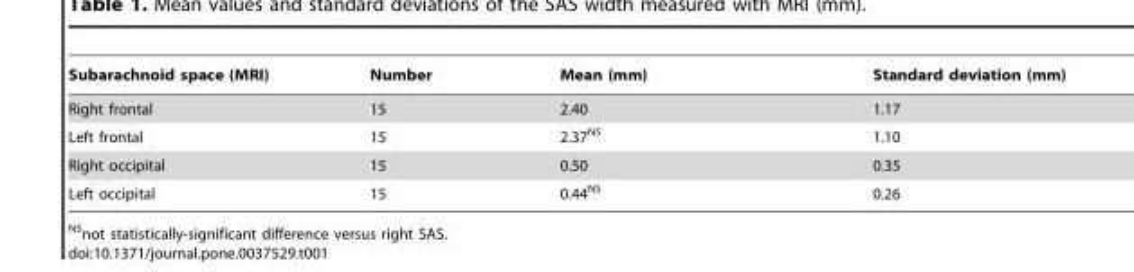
<table><thead><tr><td>Subarachnoid space (MRI)</td><td>Number</td><td>Mean (mm)</td><td>Standard deviation (mm)</td></tr></thead><tbody><tr><td>Right frontal</td><td>15</td><td>2.40</td><td>1.17</td></tr><tr><td>Left frontal</td><td>15</td><td>2.37<sup>NS</sup></td><td>1.10</td></tr><tr><td>Right occipital</td><td>15</td><td>0.50</td><td>0.35</td></tr><tr><td>Left occipital</td><td>15</td><td>0.44<sup>NS</sup></td><td>0.26</td></tr></tbody></table>